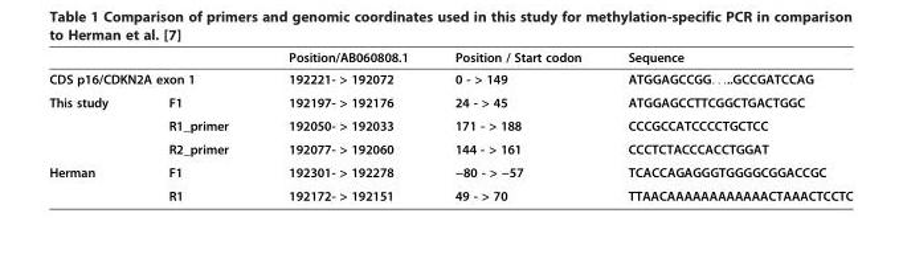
<table><thead><tr><td></td><td></td><td>Position/AB060808.1</td><td>Position / Start codon</td><td>Sequence</td></tr></thead><tbody><tr><td colspan="2">CDS p16/CDKN2A exon 1</td><td>192221- &gt; 192072</td><td>0 - &gt; 149</td><td>ATGGAGCCGG. . ...GCCGATCCAG</td></tr><tr><td rowspan="3">This study</td><td>F1</td><td>192197- &gt; 192176</td><td>24 - &gt; 45</td><td>ATGGAGCCTTCGGCTGACTGGC</td></tr><tr><td>R1_primer</td><td>192050- &gt; 192033</td><td>171 - &gt; 188</td><td>CCCGCCATCCCCTGCTCC</td></tr><tr><td>R2_primer</td><td>192077- &gt; 192060</td><td>144 - &gt; 161</td><td>CCCTCTACCCACCTGGAT</td></tr><tr><td rowspan="2">Herman</td><td>F1</td><td>192301- &gt; 192278</td><td>−80 - &gt; −57</td><td>TCACCAGAGGGTGGGGCGGACCGC</td></tr><tr><td>R1</td><td>192172- &gt; 192151</td><td>49 - &gt; 70</td><td>TTAACAAAAAAAAAAAACTAAACTCCTC</td></tr></tbody></table>